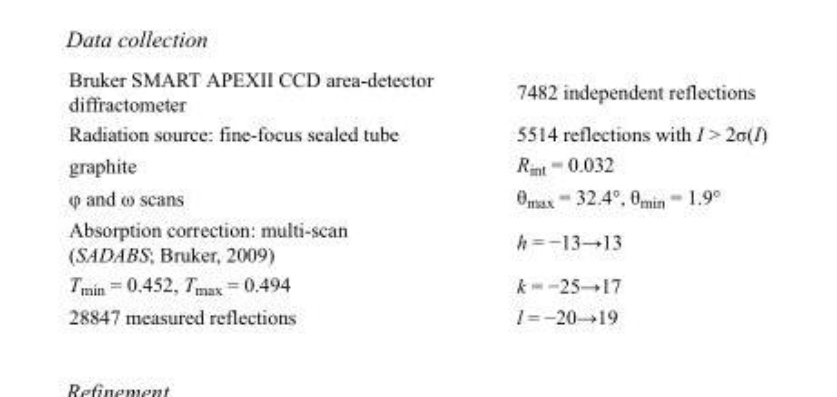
<table><tbody><tr><td>Bruker SMART APEXII CCD area-detector diffractometer</td><td>7482 independent reflections</td></tr><tr><td>Radiation source: fine-focus sealed tube</td><td>5514 reflections with I &gt; 2σ(I)</td></tr><tr><td>graphite</td><td>R<sub>int</sub> = 0.032</td></tr><tr><td>φ and ω scans</td><td>θ<sub>max</sub> = 32.4°, θ<sub>min</sub> = 1.9°</td></tr><tr><td>Absorption correction: multi-scan (SADABS; Bruker, 2009)</td><td>h = −13→13</td></tr><tr><td>T<sub>min</sub> = 0.452, T<sub>max</sub> = 0.494</td><td>k = −25→17</td></tr><tr><td>28847 measured reflections</td><td>l = −20→19</td></tr></tbody></table>